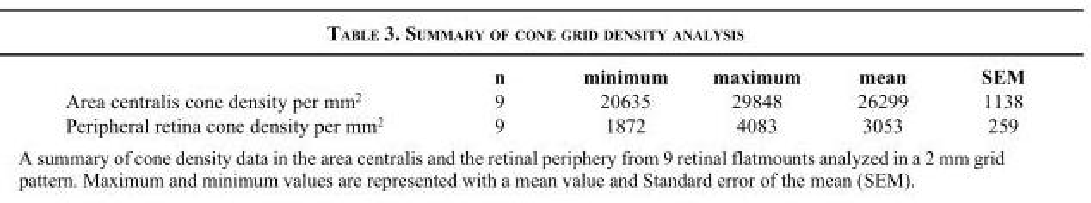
<table><thead><tr><td></td><td>n</td><td>minimum</td><td>maximum</td><td>mean</td><td>SEM</td></tr></thead><tbody><tr><td>Area centralis cone density per mm<sup>2</sup></td><td>9</td><td>20635</td><td>29848</td><td>26299</td><td>1138</td></tr><tr><td>Peripheral retina cone density per mm<sup>2</sup></td><td>9</td><td>1872</td><td>4083</td><td>3053</td><td>259</td></tr></tbody></table>